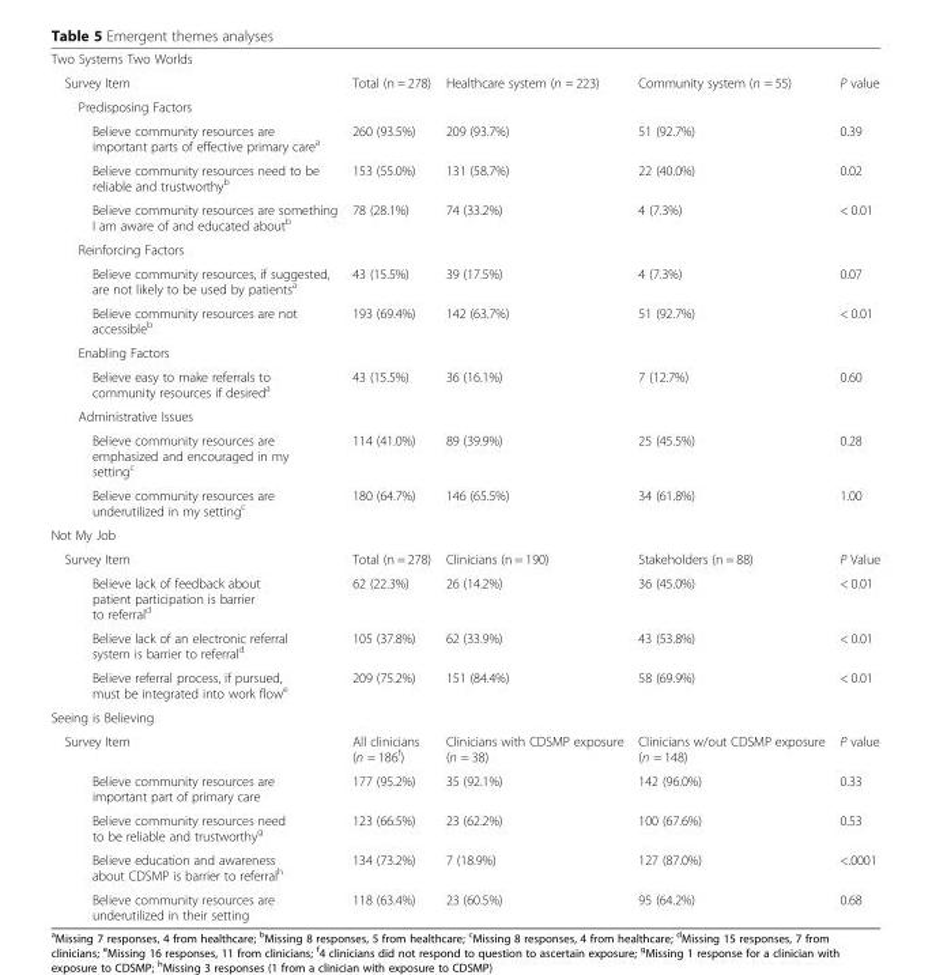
<table><tbody><tr><td colspan="5">Two Systems Two Worlds</td></tr><tr><td>Survey Item</td><td>Total (n = 278)</td><td>Healthcare system (n = 223)</td><td>Community system (n = 55)</td><td>P value</td></tr><tr><td colspan="5">Predisposing Factors</td></tr><tr><td>Believe community resources are important parts of effective primary care<sup>a</sup></td><td>260 (93.5%)</td><td>209 (93.7%)</td><td>51 (92.7%)</td><td>0.39</td></tr><tr><td>Believe community resources need to be reliable and trustworthy<sup>b</sup></td><td>153 (55.0%)</td><td>131 (58.7%)</td><td>22 (40.0%)</td><td>0.02</td></tr><tr><td>Believe community resources are something I am aware of and educated about<sup>b</sup></td><td>78 (28.1%)</td><td>74 (33.2%)</td><td>4 (7.3%)</td><td>&lt; 0.01</td></tr><tr><td colspan="5">Reinforcing Factors</td></tr><tr><td>Believe community resources, if suggested, are not likely to be used by patients<sup>a</sup></td><td>43 (15.5%)</td><td>39 (17.5%)</td><td>4 (7.3%)</td><td>0.07</td></tr><tr><td>Believe community resources are not accessible<sup>b</sup></td><td>193 (69.4%)</td><td>142 (63.7%)</td><td>51 (92.7%)</td><td>&lt; 0.01</td></tr><tr><td colspan="5">Enabling Factors</td></tr><tr><td>Believe easy to make referrals to community resources if desired<sup>a</sup></td><td>43 (15.5%)</td><td>36 (16.1%)</td><td>7 (12.7%)</td><td>0.60</td></tr><tr><td colspan="5">Administrative Issues</td></tr><tr><td>Believe community resources are emphasized and encouraged in my setting<sup>c</sup></td><td>114 (41.0%)</td><td>89 (39.9%)</td><td>25 (45.5%)</td><td>0.28</td></tr><tr><td>Believe community resources are underutilized in my setting<sup>c</sup></td><td>180 (64.7%)</td><td>146 (65.5%)</td><td>34 (61.8%)</td><td>1.00</td></tr><tr><td colspan="5">Not My Job</td></tr><tr><td>Survey Item</td><td>Total (n = 278)</td><td>Clinicians (n = 190)</td><td>Stakeholders (n = 88)</td><td>P Value</td></tr><tr><td>Believe lack of feedback about patient participation is barrier to referral<sup>d</sup></td><td>62 (22.3%)</td><td>26 (14.2%)</td><td>36 (45.0%)</td><td>&lt; 0.01</td></tr><tr><td>Believe lack of an electronic referral system is barrier to referral<sup>d</sup></td><td>105 (37.8%)</td><td>62 (33.9%)</td><td>43 (53.8%)</td><td>&lt; 0.01</td></tr><tr><td>Believe referral process, if pursued, must be integrated into work flow<sup>e</sup></td><td>209 (75.2%)</td><td>151 (84.4%)</td><td>58 (69.9%)</td><td>&lt; 0.01</td></tr><tr><td colspan="5">Seeing is Believing</td></tr><tr><td>Survey Item</td><td>All clinicians (n = 186<sup>f</sup>)</td><td>Clinicians with CDSMP exposure (n = 38)</td><td>Clinicians w/out CDSMP exposure (n = 148)</td><td>P value</td></tr><tr><td>Believe community resources are important part of primary care</td><td>177 (95.2%)</td><td>35 (92.1%)</td><td>142 (96.0%)</td><td>0.33</td></tr><tr><td>Believe community resources need to be reliable and trustworthy<sup>g</sup></td><td>123 (66.5%)</td><td>23 (62.2%)</td><td>100 (67.6%)</td><td>0.53</td></tr><tr><td>Believe education and awareness about CDSMP is barrier to referral<sup>h</sup></td><td>134 (73.2%)</td><td>7 (18.9%)</td><td>127 (87.0%)</td><td>&lt;.0001</td></tr><tr><td>Believe community resources are underutilized in their setting</td><td>118 (63.4%)</td><td>23 (60.5%)</td><td>95 (64.2%)</td><td>0.68</td></tr></tbody></table>